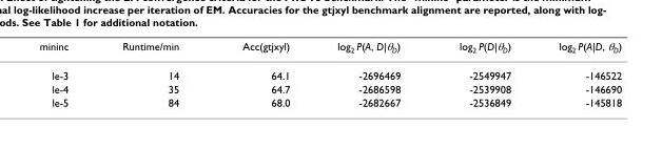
<table><thead><tr><td>mininc</td><td>Runtime/min</td><td>Acc(gtjxyl)</td><td>log<sub>2</sub> P(A, D|θ<sub>D</sub>)</td><td>log<sub>2</sub> P(D|θ<sub>D</sub>)</td><td>log<sub>2</sub> P(A|D, θ<sub>D</sub>)</td></tr></thead><tbody><tr><td>le-3</td><td>14</td><td>64.1</td><td>-2696469</td><td>-2549947</td><td>-146522</td></tr><tr><td>le-4</td><td>35</td><td>64.7</td><td>-2686598</td><td>-2539908</td><td>-146690</td></tr><tr><td>le-5</td><td>84</td><td>68.0</td><td>-2682667</td><td>-2536849</td><td>-145818</td></tr></tbody></table>